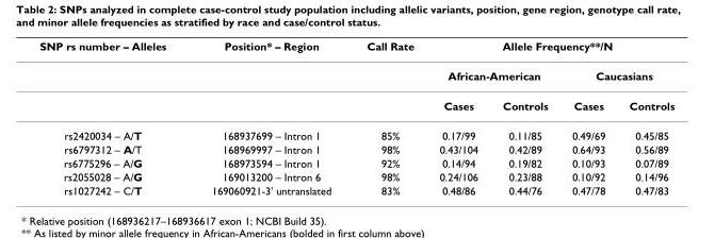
<table><thead><tr><td rowspan="3">SNP rs number – Alleles</td><td rowspan="3">Position* – Region</td><td rowspan="3">Call Rate</td><td colspan="4">Allele Frequency**/N</td></tr><tr><td colspan="2">African-American</td><td colspan="2">Caucasians</td></tr><tr><td>Cases</td><td>Controls</td><td>Cases</td><td>Controls</td></tr></thead><tbody><tr><td>rs2420034 – A/T</td><td>168937699 – Intron 1</td><td>85%</td><td>0.17/99</td><td>0.11/85</td><td>0.49/69</td><td>0.45/85</td></tr><tr><td>rs6797312 – A/T</td><td>168969997 – Intron 1</td><td>98%</td><td>0.43/104</td><td>0.42/89</td><td>0.64/93</td><td>0.56/89</td></tr><tr><td>rs6775296 – A/G</td><td>168973594 – Intron 1</td><td>92%</td><td>0.14/94</td><td>0.19/82</td><td>0.10/93</td><td>0.07/89</td></tr><tr><td>rs2055028 – A/G</td><td>169013200 – Intron 6</td><td>98%</td><td>0.24/106</td><td>0.23/88</td><td>0.10/92</td><td>0.14/96</td></tr><tr><td>rs1027242 – C/T</td><td>169060921-3&#x27; untranslated</td><td>83%</td><td>0.48/86</td><td>0.44/76</td><td>0.47/78</td><td>0.47/83</td></tr></tbody></table>